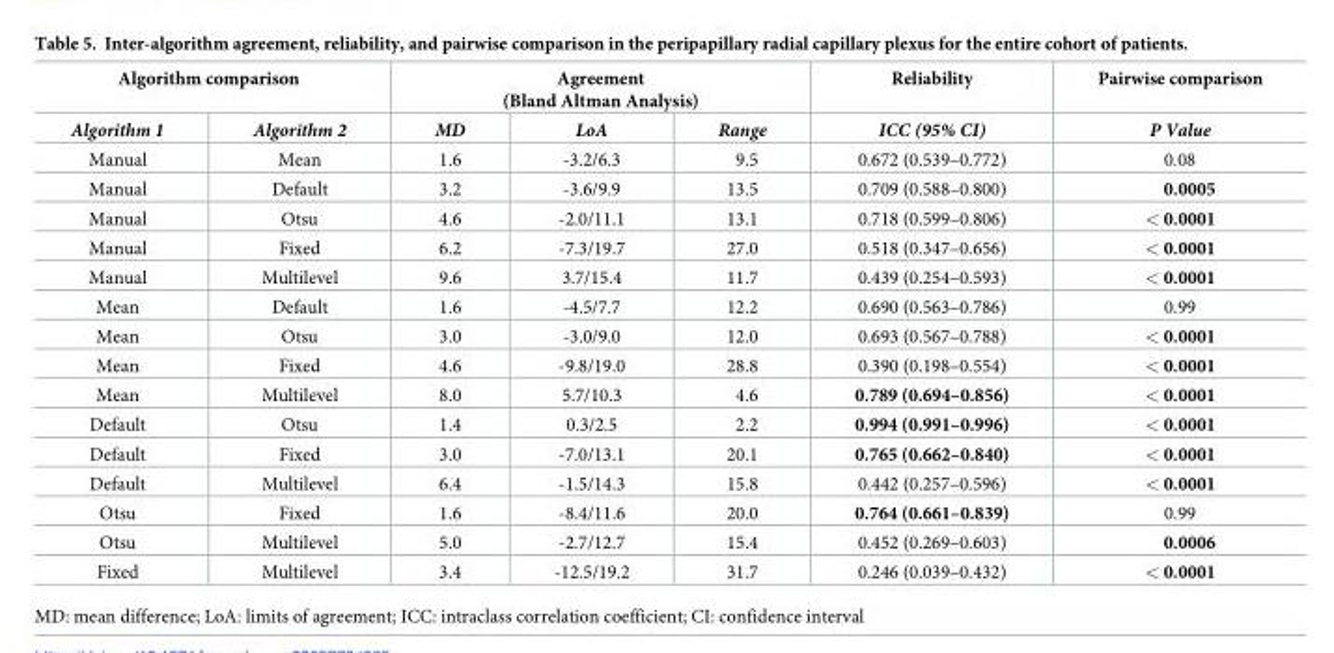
<table><thead><tr><td colspan="2">Algorithm comparison</td><td colspan="3">Agreement (Bland Altman Analysis)</td><td rowspan="2">Reliability ICC (95% CI)</td><td rowspan="2">Pairwise comparison P Value</td></tr><tr><td>Algorithm 1</td><td>Algorithm 2</td><td>MD</td><td>LoA</td><td>Range</td></tr></thead><tbody><tr><td>Manual</td><td>Mean</td><td>1.6</td><td>-3.2/6.3</td><td>9.5</td><td>0.672 (0.539–0.772)</td><td>0.08</td></tr><tr><td>Manual</td><td>Default</td><td>3.2</td><td>-3.6/9.9</td><td>13.5</td><td>0.709 (0.588–0.800)</td><td>0.0005</td></tr><tr><td>Manual</td><td>Otsu</td><td>4.6</td><td>-2.0/11.1</td><td>13.1</td><td>0.718 (0.599–0.806)</td><td>&lt; 0.0001</td></tr><tr><td>Manual</td><td>Fixed</td><td>6.2</td><td>-7.3/19.7</td><td>27.0</td><td>0.518 (0.347–0.656)</td><td>&lt; 0.0001</td></tr><tr><td>Manual</td><td>Multilevel</td><td>9.6</td><td>3.7/15.4</td><td>11.7</td><td>0.439 (0.254–0.593)</td><td>&lt; 0.0001</td></tr><tr><td>Mean</td><td>Default</td><td>1.6</td><td>-4.5/7.7</td><td>12.2</td><td>0.690 (0.563–0.786)</td><td>0.99</td></tr><tr><td>Mean</td><td>Otsu</td><td>3.0</td><td>-3.0/9.0</td><td>12.0</td><td>0.693 (0.567–0.788)</td><td>&lt; 0.0001</td></tr><tr><td>Mean</td><td>Fixed</td><td>4.6</td><td>-9.8/19.0</td><td>28.8</td><td>0.390 (0.198–0.554)</td><td>&lt; 0.0001</td></tr><tr><td>Mean</td><td>Multilevel</td><td>8.0</td><td>5.7/10.3</td><td>4.6</td><td>0.789 (0.694–0.856)</td><td>&lt; 0.0001</td></tr><tr><td>Default</td><td>Otsu</td><td>1.4</td><td>0.3/2.5</td><td>2.2</td><td>0.994 (0.991–0.996)</td><td>&lt; 0.0001</td></tr><tr><td>Default</td><td>Fixed</td><td>3.0</td><td>-7.0/13.1</td><td>20.1</td><td>0.765 (0.662–0.840)</td><td>&lt; 0.0001</td></tr><tr><td>Default</td><td>Multilevel</td><td>6.4</td><td>-1.5/14.3</td><td>15.8</td><td>0.442 (0.257–0.596)</td><td>&lt; 0.0001</td></tr><tr><td>Otsu</td><td>Fixed</td><td>1.6</td><td>-8.4/11.6</td><td>20.0</td><td>0.764 (0.661–0.839)</td><td>0.99</td></tr><tr><td>Otsu</td><td>Multilevel</td><td>5.0</td><td>-2.7/12.7</td><td>15.4</td><td>0.452 (0.269–0.603)</td><td>0.0006</td></tr><tr><td>Fixed</td><td>Multilevel</td><td>3.4</td><td>-12.5/19.2</td><td>31.7</td><td>0.246 (0.039–0.432)</td><td>&lt; 0.0001</td></tr></tbody></table>